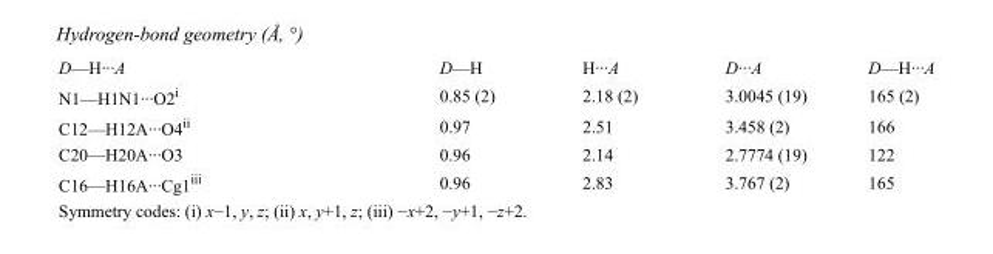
<table><tbody><tr><td>D—H···A</td><td>D—H</td><td>H···A</td><td>D···A</td><td>D—H···A</td></tr><tr><td>N1—H1N1···O2<sup>i</sup></td><td>0.85 (2)</td><td>2.18 (2)</td><td>3.0045 (19)</td><td>165 (2)</td></tr><tr><td>C12—H12A···O4<sup>ii</sup></td><td>0.97</td><td>2.51</td><td>3.458 (2)</td><td>166</td></tr><tr><td>C20—H20A···O3</td><td>0.96</td><td>2.14</td><td>2.7774 (19)</td><td>122</td></tr><tr><td>C16—H16A···Cg1<sup>iii</sup></td><td>0.96</td><td>2.83</td><td>3.767 (2)</td><td>165</td></tr></tbody></table>